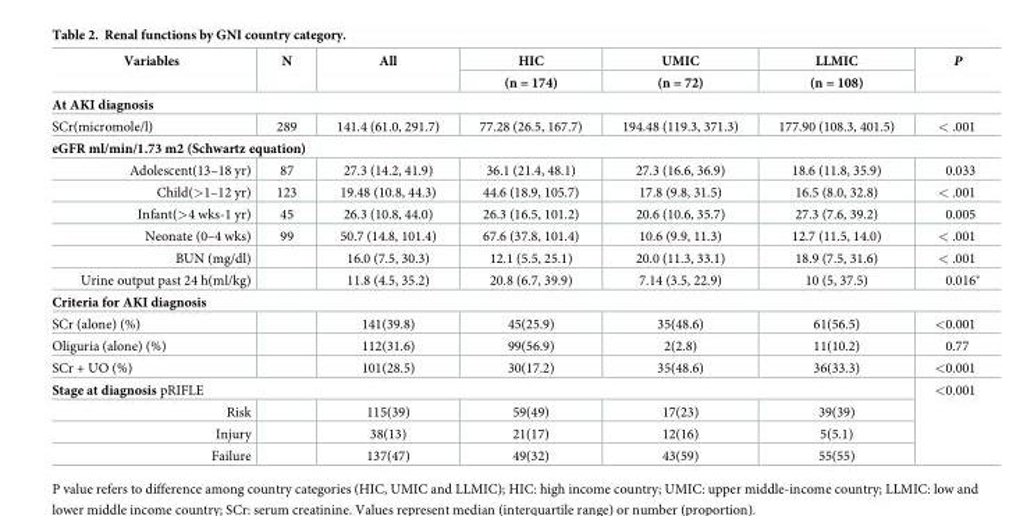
<table><thead><tr><td rowspan="2">Variables</td><td rowspan="2">N</td><td rowspan="2">All</td><td rowspan="2">HIC (n = 174)</td><td rowspan="2">UMIC (n = 72)</td><td rowspan="2">LLMIC (n = 108)</td><td rowspan="2">P</td></tr><tr></tr></thead><tbody><tr><td colspan="7">At AKI diagnosis</td></tr><tr><td>SCr(micromole/l)</td><td>289</td><td>141.4 (61.0, 291.7)</td><td>77.28 (26.5, 167.7)</td><td>194.48 (119.3, 371.3)</td><td>177.90 (108.3, 401.5)</td><td>&lt; .001</td></tr><tr><td colspan="7">eGFR ml/min/1.73 m2 (Schwartz equation)</td></tr><tr><td>Adolescent(13–18 yr)</td><td>87</td><td>27.3 (14.2, 41.9)</td><td>36.1 (21.4, 48.1)</td><td>27.3 (16.6, 36.9)</td><td>18.6 (11.8, 35.9)</td><td>0.033</td></tr><tr><td>Child(&gt;1–12 yr)</td><td>123</td><td>19.48 (10.8, 44.3)</td><td>44.6 (18.9, 105.7)</td><td>17.8 (9.8, 31.5)</td><td>16.5 (8.0, 32.8)</td><td>&lt; .001</td></tr><tr><td>Infant(&gt;4 wks-1 yr)</td><td>45</td><td>26.3 (10.8, 44.0)</td><td>26.3 (16.5, 101.2)</td><td>20.6 (10.6, 35.7)</td><td>27.3 (7.6, 39.2)</td><td>0.005</td></tr><tr><td>Neonate (0–4 wks)</td><td>99</td><td>50.7 (14.8, 101.4)</td><td>67.6 (37.8, 101.4)</td><td>10.6 (9.9, 11.3)</td><td>12.7 (11.5, 14.0)</td><td>&lt; .001</td></tr><tr><td>BUN (mg/dl)</td><td></td><td>16.0 (7.5, 30.3)</td><td>12.1 (5.5, 25.1)</td><td>20.0 (11.3, 33.1)</td><td>18.9 (7.5, 31.6)</td><td>&lt; .001</td></tr><tr><td>Urine output past 24 h(ml/kg)</td><td></td><td>11.8 (4.5, 35.2)</td><td>20.8 (6.7, 39.9)</td><td>7.14 (3.5, 22.9)</td><td>10 (5, 37.5)</td><td>0.016*</td></tr><tr><td colspan="7">Criteria for AKI diagnosis</td></tr><tr><td>SCr (alone) (%)</td><td></td><td>141(39.8)</td><td>45(25.9)</td><td>35(48.6)</td><td>61(56.5)</td><td>&lt;0.001</td></tr><tr><td>Oliguria (alone) (%)</td><td></td><td>112(31.6)</td><td>99(56.9)</td><td>2(2.8)</td><td>11(10.2)</td><td>0.77</td></tr><tr><td>SCr + UO (%)</td><td></td><td>101(28.5)</td><td>30(17.2)</td><td>35(48.6)</td><td>36(33.3)</td><td>&lt;0.001</td></tr><tr><td colspan="6">Stage at diagnosis pRIFLE</td><td rowspan="4">&lt;0.001</td></tr><tr><td>Risk</td><td></td><td>115(39)</td><td>59(49)</td><td>17(23)</td><td>39(39)</td></tr><tr><td>Injury</td><td></td><td>38(13)</td><td>21(17)</td><td>12(16)</td><td>5(5.1)</td></tr><tr><td>Failure</td><td></td><td>137(47)</td><td>49(32)</td><td>43(59)</td><td>55(55)</td></tr></tbody></table>